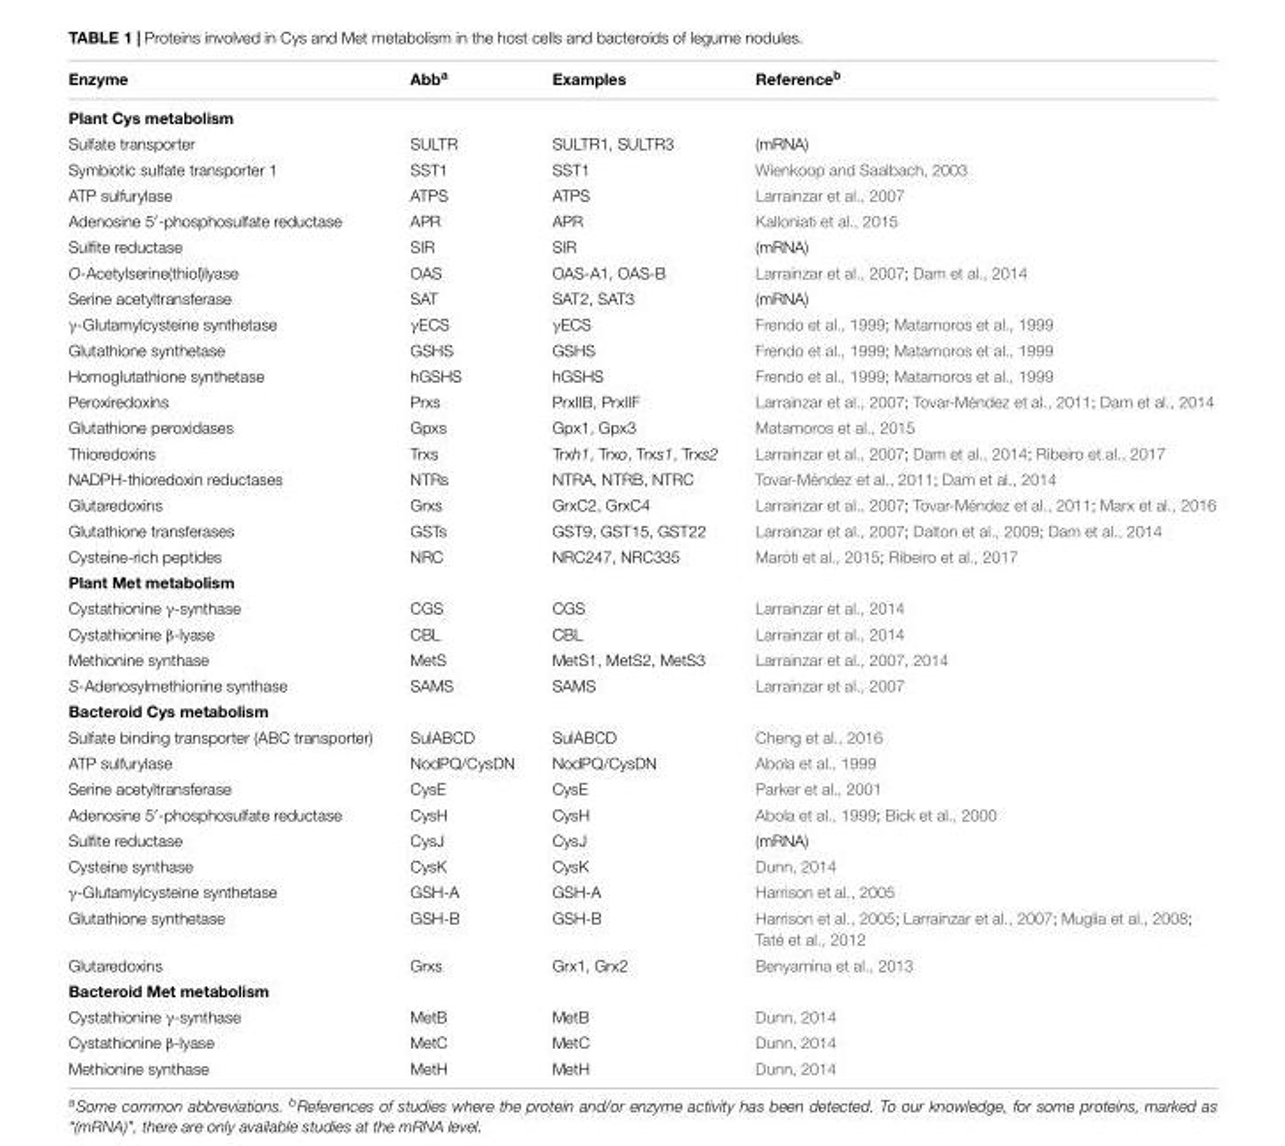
<table><thead><tr><td>Enzyme</td><td>Abb<sup>a</sup></td><td>Examples</td><td>Reference<sup>b</sup></td></tr></thead><tbody><tr><td colspan="4">Plant Cys metabolism</td></tr><tr><td>Sulfate transporter</td><td>SULTR</td><td>SULTR1, SULTR3</td><td>(mRNA)</td></tr><tr><td>Symbiotic sulfate transporter 1</td><td>SST1</td><td>SST1</td><td>Wienkoop and Saalbach, 2003</td></tr><tr><td>ATP sulfurylase</td><td>ATPS</td><td>ATPS</td><td>Larrainzar et al., 2007</td></tr><tr><td>Adenosine 5′-phosphosulfate reductase</td><td>APR</td><td>APR</td><td>Kalloniati et al., 2015</td></tr><tr><td>Sulfite reductase</td><td>SIR</td><td>SIR</td><td>(mRNA)</td></tr><tr><td>O-Acetylserine(thiol)lyase</td><td>OAS</td><td>OAS-A1, OAS-B</td><td>Larrainzar et al., 2007; Dam et al., 2014</td></tr><tr><td>Serine acetyltransferase</td><td>SAT</td><td>SAT2, SAT3</td><td>(mRNA)</td></tr><tr><td>γ-Glutamylcysteine synthetase</td><td>γECS</td><td>γECS</td><td>Frendo et al., 1999; Matamoros et al., 1999</td></tr><tr><td>Glutathione synthetase</td><td>GSHS</td><td>GSHS</td><td>Frendo et al., 1999; Matamoros et al., 1999</td></tr><tr><td>Homoglutathione synthetase</td><td>hGSHS</td><td>hGSHS</td><td>Frendo et al., 1999; Matamoros et al., 1999</td></tr><tr><td>Peroxiredoxins</td><td>Prxs</td><td>PrxIIB, PrxIIF</td><td>Larrainzar et al., 2007; Tovar-Méndez et al., 2011; Dam et al., 2014</td></tr><tr><td>Glutathione peroxidases</td><td>Gpxs</td><td>Gpx1, Gpx3</td><td>Matamoros et al., 2015</td></tr><tr><td>Thioredoxins</td><td>Trxs</td><td>Trxh1, Trxo, Trxs1, Trxs2</td><td>Larrainzar et al., 2007; Dam et al., 2014; Ribeiro et al., 2017</td></tr><tr><td>NADPH-thioredoxin reductases</td><td>NTRs</td><td>NTRA, NTRB, NTRC</td><td>Tovar-Méndez et al., 2011; Dam et al., 2014</td></tr><tr><td>Glutaredoxins</td><td>Grxs</td><td>GrxC2, GrxC4</td><td>Larrainzar et al., 2007; Tovar-Méndez et al., 2011; Marx et al., 2016</td></tr><tr><td>Glutathione transferases</td><td>GSTs</td><td>GST9, GST15, GST22</td><td>Larrainzar et al., 2007; Dalton et al., 2009; Dam et al., 2014</td></tr><tr><td>Cysteine-rich peptides</td><td>NRC</td><td>NRC247, NRC335</td><td>Maróti et al., 2015; Ribeiro et al., 2017</td></tr><tr><td colspan="4">Plant Met metabolism</td></tr><tr><td>Cystathionine γ-synthase</td><td>CGS</td><td>CGS</td><td>Larrainzar et al., 2014</td></tr><tr><td>Cystathionine β-lyase</td><td>CBL</td><td>CBL</td><td>Larrainzar et al., 2014</td></tr><tr><td>Methionine synthase</td><td>MetS</td><td>MetS1, MetS2, MetS3</td><td>Larrainzar et al., 2007, 2014</td></tr><tr><td>S-Adenosylmethionine synthase</td><td>SAMS</td><td>SAMS</td><td>Larrainzar et al., 2007</td></tr><tr><td colspan="4">Bacteroid Cys metabolism</td></tr><tr><td>Sulfate binding transporter (ABC transporter)</td><td>SulABCD</td><td>SulABCD</td><td>Cheng et al., 2016</td></tr><tr><td>ATP sulfurylase</td><td>NodPQ/CysDN</td><td>NodPQ/CysDN</td><td>Abola et al., 1999</td></tr><tr><td>Serine acetyltransferase</td><td>CysE</td><td>CysE</td><td>Parker et al., 2001</td></tr><tr><td>Adenosine 5′-phosphosulfate reductase</td><td>CysH</td><td>CysH</td><td>Abola et al., 1999; Bick et al., 2000</td></tr><tr><td>Sulfite reductase</td><td>CysJ</td><td>CysJ</td><td>(mRNA)</td></tr><tr><td>Cysteine synthase</td><td>CysK</td><td>CysK</td><td>Dunn, 2014</td></tr><tr><td>γ-Glutamylcysteine synthetase</td><td>GSH-A</td><td>GSH-A</td><td>Harrison et al., 2005</td></tr><tr><td>Glutathione synthetase</td><td>GSH-B</td><td>GSH-B</td><td>Harrison et al., 2005; Larrainzar et al., 2007; Muglia et al., 2008; Taté et al., 2012</td></tr><tr><td>Glutaredoxins</td><td>Grxs</td><td>Grx1, Grx2</td><td>Benyamina et al., 2013</td></tr><tr><td colspan="4">Bacteroid Met metabolism</td></tr><tr><td>Cystathionine γ-synthase</td><td>MetB</td><td>MetB</td><td>Dunn, 2014</td></tr><tr><td>Cystathionine β-lyase</td><td>MetC</td><td>MetC</td><td>Dunn, 2014</td></tr><tr><td>Methionine synthase</td><td>MetH</td><td>MetH</td><td>Dunn, 2014</td></tr></tbody></table>